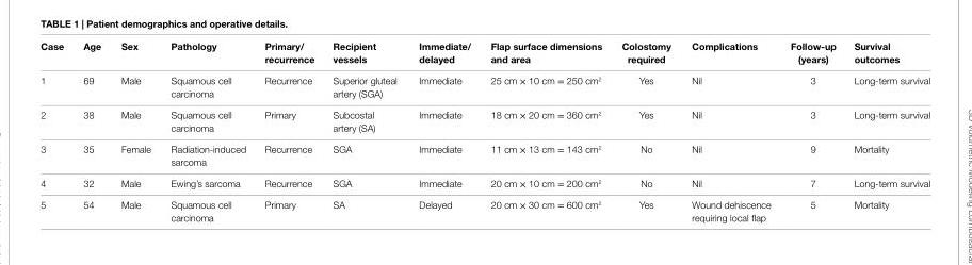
<table><thead><tr><td>case</td><td>age</td><td>sex</td><td>Pathology</td><td>Primary/ recurrence</td><td>recipient vessels</td><td>immediate/ delayed</td><td>Flap surface dimensions and area</td><td>colostomy required</td><td>complications</td><td>Follow-up (years)</td><td>survival outcomes</td></tr></thead><tbody><tr><td>1</td><td>69</td><td>Male</td><td>Squamous cell carcinoma</td><td>Recurrence</td><td>Superior gluteal artery (SGA)</td><td>Immediate</td><td>25 cm × 10 cm = 250 cm<sup>2</sup></td><td>Yes</td><td>Nil</td><td>3</td><td>Long-term survival</td></tr><tr><td>2</td><td>38</td><td>Male</td><td>Squamous cell carcinoma</td><td>Primary</td><td>Subcostal artery (SA)</td><td>Immediate</td><td>18 cm × 20 cm = 360 cm<sup>2</sup></td><td>Yes</td><td>Nil</td><td>3</td><td>Long-term survival</td></tr><tr><td>3</td><td>35</td><td>Female</td><td>Radiation-induced sarcoma</td><td>Recurrence</td><td>SGA</td><td>Immediate</td><td>11 cm × 13 cm = 143 cm<sup>2</sup></td><td>No</td><td>Nil</td><td>9</td><td>Mortality</td></tr><tr><td>4</td><td>32</td><td>Male</td><td>Ewing’s sarcoma</td><td>Recurrence</td><td>SGA</td><td>Immediate</td><td>20 cm × 10 cm = 200 cm<sup>2</sup></td><td>No</td><td>Nil</td><td>7</td><td>Long-term survival</td></tr><tr><td>5</td><td>54</td><td>Male</td><td>Squamous cell carcinoma</td><td>Primary</td><td>SA</td><td>Delayed</td><td>20 cm × 30 cm = 600 cm<sup>2</sup></td><td>Yes</td><td>Wound dehiscence requiring local flap</td><td>5</td><td>Mortality</td></tr></tbody></table>